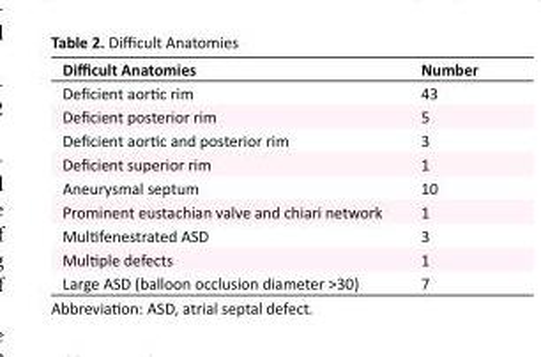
<table><tbody><tr><td>Difficult Anatomies</td><td>Number</td></tr><tr><td>Deficient aortic rim</td><td>43</td></tr><tr><td>Deficient posterior rim</td><td>5</td></tr><tr><td>Deficient aortic and posterior rim</td><td>3</td></tr><tr><td>Deficient superior rim</td><td>1</td></tr><tr><td>Aneurysmal septum</td><td>10</td></tr><tr><td>Prominent eustachian valve and chiari network</td><td>1</td></tr><tr><td>Multifenestrated ASD</td><td>3</td></tr><tr><td>Multiple defects</td><td>1</td></tr><tr><td>Large ASD (balloon occlusion diameter &gt;30)</td><td>7</td></tr></tbody></table>